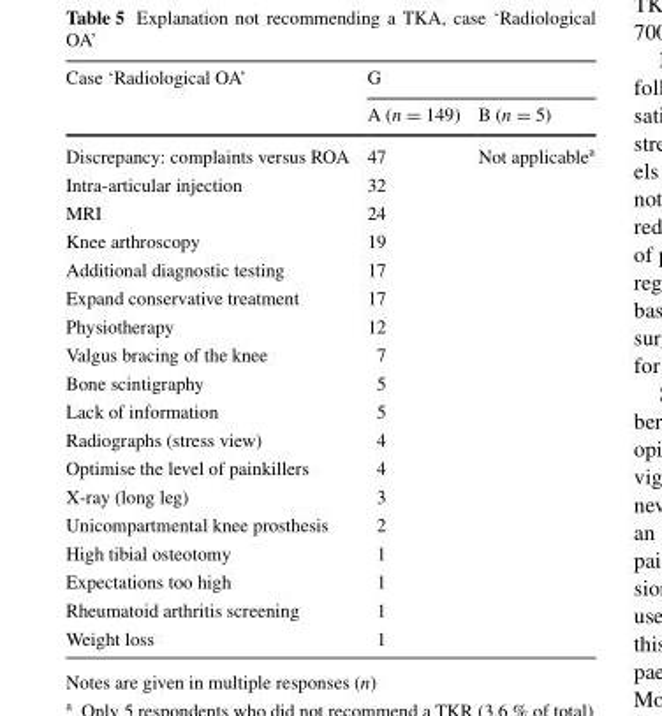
<table><thead><tr><td rowspan="2">Case ‘Radiological OA’</td><td colspan="2">G</td></tr><tr><td>A (n = 149)</td><td>B (n = 5)</td></tr></thead><tbody><tr><td>Discrepancy: complaints versus ROA</td><td>47</td><td>Not applicable<sup>a</sup></td></tr><tr><td>Intra-articular injection</td><td>32</td><td></td></tr><tr><td>MRI</td><td>24</td><td></td></tr><tr><td>Knee arthroscopy</td><td>19</td><td></td></tr><tr><td>Additional diagnostic testing</td><td>17</td><td></td></tr><tr><td>Expand conservative treatment</td><td>17</td><td></td></tr><tr><td>Physiotherapy</td><td>12</td><td></td></tr><tr><td>Valgus bracing of the knee</td><td>7</td><td></td></tr><tr><td>Bone scintigraphy</td><td>5</td><td></td></tr><tr><td>Lack of information</td><td>5</td><td></td></tr><tr><td>Radiographs (stress view)</td><td>4</td><td></td></tr><tr><td>Optimise the level of painkillers</td><td>4</td><td></td></tr><tr><td>X-ray (long leg)</td><td>3</td><td></td></tr><tr><td>Unicompartmental knee prosthesis</td><td>2</td><td></td></tr><tr><td>High tibial osteotomy</td><td>1</td><td></td></tr><tr><td>Expectations too high</td><td>1</td><td></td></tr><tr><td>Rheumatoid arthritis screening</td><td>1</td><td></td></tr><tr><td>Weight loss</td><td>1</td><td></td></tr></tbody></table>